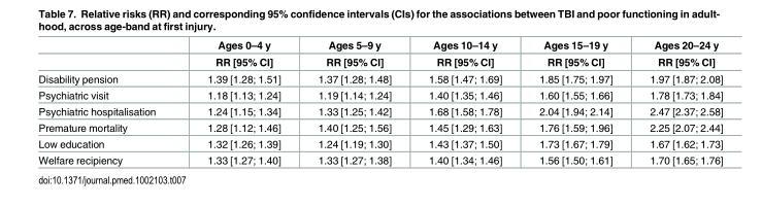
<table><thead><tr><td rowspan="2"></td><td rowspan="2">Ages 0–4 y RR [95% CI]</td><td rowspan="2">Ages 5–9 y RR [95% CI]</td><td rowspan="2">Ages 10–14 y RR [95% CI]</td><td rowspan="2">Ages 15–19 y RR [95% CI]</td><td rowspan="2">Ages 20–24 y RR [95% CI]</td></tr><tr></tr></thead><tbody><tr><td>Disability pension</td><td>1.39 [1.28; 1.51]</td><td>1.37 [1.28; 1.48]</td><td>1.58 [1.47; 1.69]</td><td>1.85 [1.75; 1.97]</td><td>1.97 [1.87; 2.08]</td></tr><tr><td>Psychiatric visit</td><td>1.18 [1.13; 1.24]</td><td>1.19 [1.14; 1.24]</td><td>1.40 [1.35; 1.46]</td><td>1.60 [1.55; 1.66]</td><td>1.78 [1.73; 1.84]</td></tr><tr><td>Psychiatric hospitalisation</td><td>1.24 [1.15; 1.34]</td><td>1.33 [1.25; 1.42]</td><td>1.68 [1.58; 1.78]</td><td>2.04 [1.94; 2.14]</td><td>2.47 [2.37; 2.58]</td></tr><tr><td>Premature mortality</td><td>1.28 [1.12; 1.46]</td><td>1.40 [1.25; 1.56]</td><td>1.45 [1.29; 1.63]</td><td>1.76 [1.59; 1.96]</td><td>2.25 [2.07; 2.44]</td></tr><tr><td>Low education</td><td>1.32 [1.26; 1.39]</td><td>1.24 [1.19; 1.30]</td><td>1.43 [1.37; 1.50]</td><td>1.73 [1.67; 1.79]</td><td>1.67 [1.62; 1.73]</td></tr><tr><td>Welfare recipiency</td><td>1.33 [1.27; 1.40]</td><td>1.33 [1.27; 1.38]</td><td>1.40 [1.34; 1.46]</td><td>1.56 [1.50; 1.61]</td><td>1.70 [1.65; 1.76]</td></tr></tbody></table>